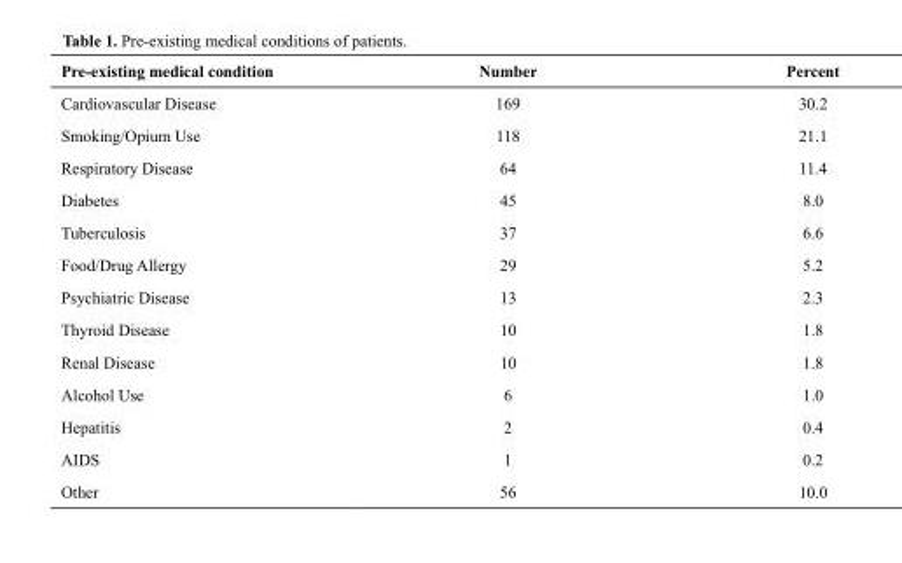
<table><thead><tr><td>Pre-existing medical condition</td><td>Number</td><td>Percent</td></tr></thead><tbody><tr><td>Cardiovascular Disease</td><td>169</td><td>30.2</td></tr><tr><td>Smoking/Opium Use</td><td>118</td><td>21.1</td></tr><tr><td>Respiratory Disease</td><td>64</td><td>11.4</td></tr><tr><td>Diabetes</td><td>45</td><td>8.0</td></tr><tr><td>Tuberculosis</td><td>37</td><td>6.6</td></tr><tr><td>Food/Drug Allergy</td><td>29</td><td>5.2</td></tr><tr><td>Psychiatric Disease</td><td>13</td><td>2.3</td></tr><tr><td>Thyroid Disease</td><td>10</td><td>1.8</td></tr><tr><td>Renal Disease</td><td>10</td><td>1.8</td></tr><tr><td>Alcohol Use</td><td>6</td><td>1.0</td></tr><tr><td>Hepatitis</td><td>2</td><td>0.4</td></tr><tr><td>AIDS</td><td>1</td><td>0.2</td></tr><tr><td>Other</td><td>56</td><td>10.0</td></tr></tbody></table>